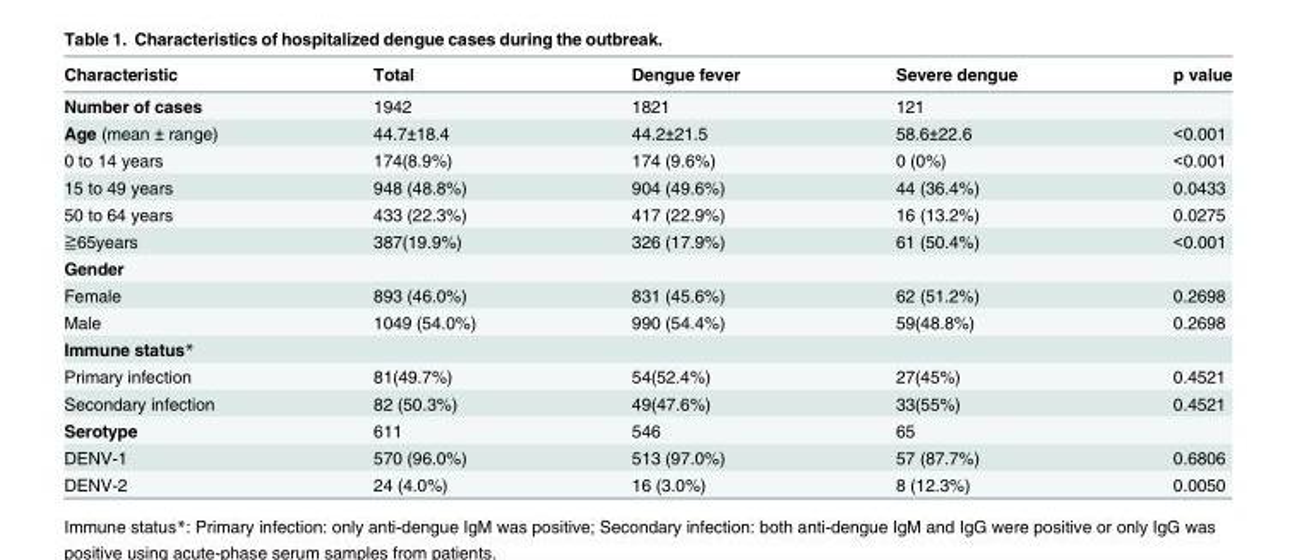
<table><thead><tr><td>Characteristic</td><td>Total</td><td>Dengue fever</td><td>Severe dengue</td><td>p value</td></tr></thead><tbody><tr><td>Number of cases</td><td>1942</td><td>1821</td><td>121</td><td></td></tr><tr><td>Age (mean ± range)</td><td>44.7±18.4</td><td>44.2±21.5</td><td>58.6±22.6</td><td>&lt;0.001</td></tr><tr><td>0 to 14 years</td><td>174(8.9%)</td><td>174 (9.6%)</td><td>0 (0%)</td><td>&lt;0.001</td></tr><tr><td>15 to 49 years</td><td>948 (48.8%)</td><td>904 (49.6%)</td><td>44 (36.4%)</td><td>0.0433</td></tr><tr><td>50 to 64 years</td><td>433 (22.3%)</td><td>417 (22.9%)</td><td>16 (13.2%)</td><td>0.0275</td></tr><tr><td>≧65years</td><td>387(19.9%)</td><td>326 (17.9%)</td><td>61 (50.4%)</td><td>&lt;0.001</td></tr><tr><td colspan="5">Gender</td></tr><tr><td>Female</td><td>893 (46.0%)</td><td>831 (45.6%)</td><td>62 (51.2%)</td><td>0.2698</td></tr><tr><td>Male</td><td>1049 (54.0%)</td><td>990 (54.4%)</td><td>59(48.8%)</td><td>0.2698</td></tr><tr><td colspan="5">Immune status*</td></tr><tr><td>Primary infection</td><td>81(49.7%)</td><td>54(52.4%)</td><td>27(45%)</td><td>0.4521</td></tr><tr><td>Secondary infection</td><td>82 (50.3%)</td><td>49(47.6%)</td><td>33(55%)</td><td>0.4521</td></tr><tr><td>Serotype</td><td>611</td><td>546</td><td>65</td><td></td></tr><tr><td>DENV-1</td><td>570 (96.0%)</td><td>513 (97.0%)</td><td>57 (87.7%)</td><td>0.6806</td></tr><tr><td>DENV-2</td><td>24 (4.0%)</td><td>16 (3.0%)</td><td>8 (12.3%)</td><td>0.0050</td></tr></tbody></table>